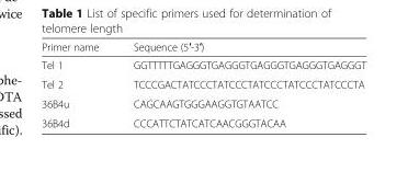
<table><thead><tr><td>Primer name</td><td>Sequence (5′-3′)</td></tr></thead><tbody><tr><td>Tel 1</td><td>GGTTTTTGAGGGTGAGGGTGAGGGTGAGGGTGAGGGT</td></tr><tr><td>Tel 2</td><td>TCCCGACTATCCCTATCCCTATCCCTATCCCTATCCCTA</td></tr><tr><td>36B4u</td><td>CAGCAAGTGGGAAGGTGTAATCC</td></tr><tr><td>36B4d</td><td>CCCATTCTATCATCAACGGGTACAA</td></tr></tbody></table>